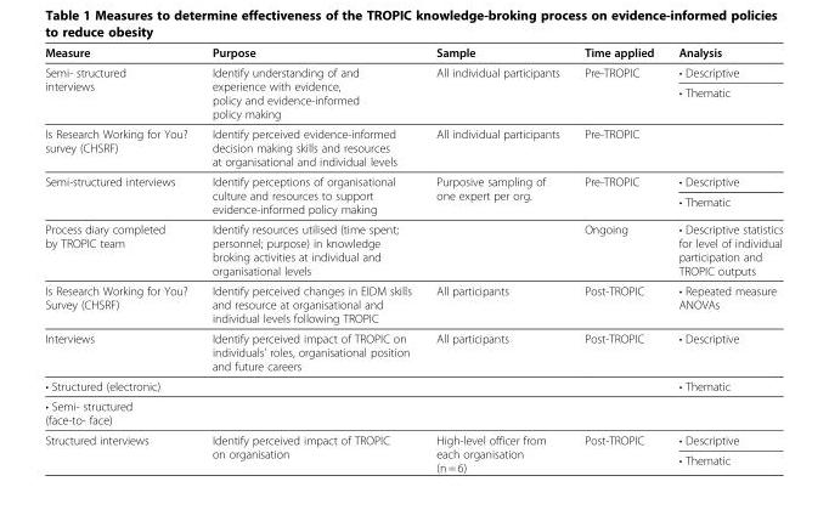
<table><thead><tr><td>Measure</td><td>Purpose</td><td>Sample</td><td>Time applied</td><td>Analysis</td></tr></thead><tbody><tr><td rowspan="2">Semi- structured interviews</td><td rowspan="2">Identify understanding of and experience with evidence, policy and evidence-informed policy making</td><td rowspan="2">All individual participants</td><td rowspan="2">Pre-TROPIC</td><td>• Descriptive</td></tr><tr><td>• Thematic</td></tr><tr><td>Is Research Working for You? survey (CHSRF)</td><td>Identify perceived evidence-informed decision making skills and resources at organisational and individual levels</td><td>All individual participants</td><td>Pre-TROPIC</td><td></td></tr><tr><td rowspan="2">Semi-structured interviews</td><td rowspan="2">Identify perceptions of organisational culture and resources to support evidence-informed policy making</td><td rowspan="2">Purposive sampling of one expert per org.</td><td rowspan="2">Pre-TROPIC</td><td>• Descriptive</td></tr><tr><td>• Thematic</td></tr><tr><td>Process diary completed by TROPIC team</td><td>Identify resources utilised (time spent; personnel; purpose) in knowledge broking activities at individual and organisational levels</td><td></td><td>Ongoing</td><td>• Descriptive statistics for level of individual participation and TROPIC outputs</td></tr><tr><td>Is Research Working for You? Survey (CHSRF)</td><td>Identify perceived changes in EIDM skills and resource at organisational and individual levels following TROPIC</td><td>All participants</td><td>Post-TROPIC</td><td>• Repeated measure ANOVAs</td></tr><tr><td>Interviews</td><td>Identify perceived impact of TROPIC on individuals’ roles, organisational position and future careers</td><td>All participants</td><td>Post-TROPIC</td><td>• Descriptive</td></tr><tr><td>• Structured (electronic)</td><td></td><td></td><td></td><td>• Thematic</td></tr><tr><td colspan="5">• Semi- structured (face-to- face)</td></tr><tr><td rowspan="2">Structured interviews</td><td rowspan="2">Identify perceived impact of TROPIC on organisation</td><td rowspan="2">High-level officer from each organisation (n = 6)</td><td rowspan="2">Post-TROPIC</td><td>• Descriptive</td></tr><tr><td>• Thematic</td></tr></tbody></table>